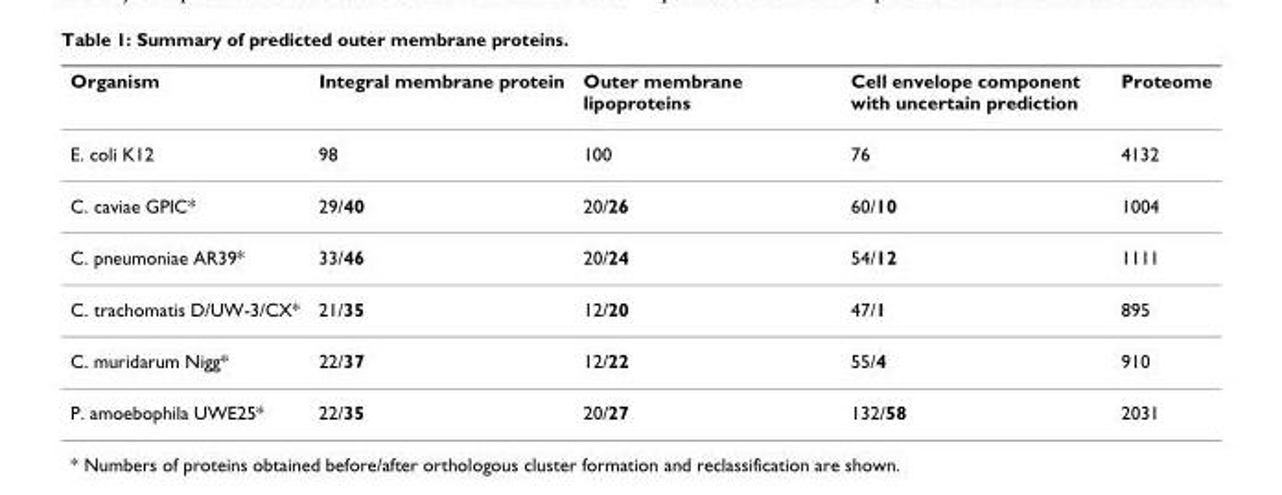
<table><thead><tr><td>Organism</td><td>Integral membrane protein</td><td>Outer membrane lipoproteins</td><td>Cell envelope component with uncertain prediction</td><td>Proteome</td></tr></thead><tbody><tr><td>E. coli K12</td><td>98</td><td>100</td><td>76</td><td>4132</td></tr><tr><td>C. caviae GPIC*</td><td>29/40</td><td>20/26</td><td>60/10</td><td>1004</td></tr><tr><td>C. pneumoniae AR39*</td><td>33/46</td><td>20/24</td><td>54/12</td><td>1111</td></tr><tr><td>C. trachomatis D/UW-3/CX*</td><td>21/35</td><td>12/20</td><td>47/1</td><td>895</td></tr><tr><td>C. muridarum Nigg*</td><td>22/37</td><td>12/22</td><td>55/4</td><td>910</td></tr><tr><td>P. amoebophila UWE25*</td><td>22/35</td><td>20/27</td><td>132/58</td><td>2031</td></tr></tbody></table>